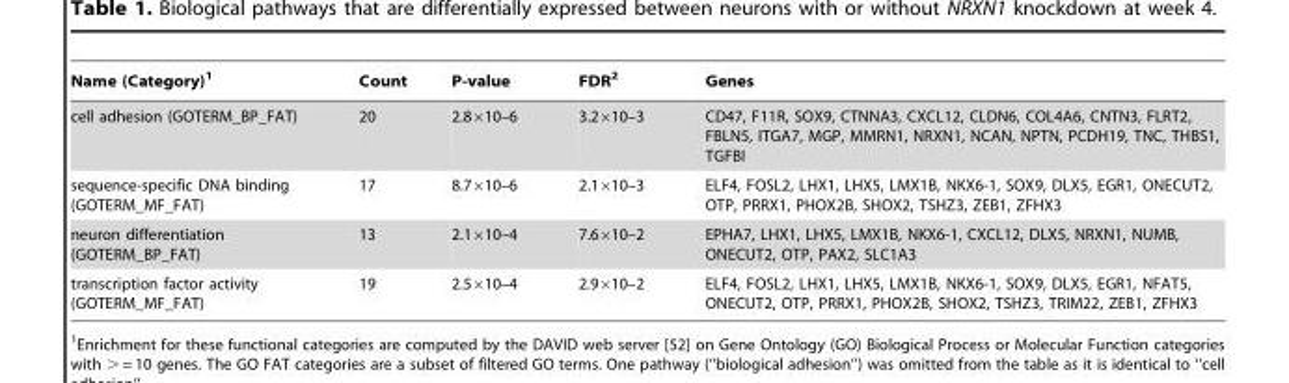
<table><thead><tr><td>Name (Category)<sup>1</sup></td><td>Count</td><td>P-value</td><td>FDR<sup>2</sup></td><td>Genes</td></tr></thead><tbody><tr><td>cell adhesion (GOTERM_BP_FAT)</td><td>20</td><td>2.8×10–6</td><td>3.2×10–3</td><td>CD47, F11R, SOX9, CTNNA3, CXCL12, CLDN6, COL4A6, CNTN3, FLRT2, FBLN5, ITGA7, MGP, MMRN1, NRXN1, NCAN, NPTN, PCDH19, TNC, THBS1, TGFBI</td></tr><tr><td>sequence-specific DNA binding (GOTERM_MF_FAT)</td><td>17</td><td>8.7×10–6</td><td>2.1×10–3</td><td>ELF4, FOSL2, LHX1, LHX5, LMX1B, NKX6-1, SOX9, DLX5, EGR1, ONECUT2, OTP, PRRX1, PHOX2B, SHOX2, TSHZ3, ZEB1, ZFHX3</td></tr><tr><td>neuron differentiation (GOTERM_BP_FAT)</td><td>13</td><td>2.1×10–4</td><td>7.6×10–2</td><td>EPHA7, LHX1, LHX5, LMX1B, NKX6-1, CXCL12, DLX5, NRXN1, NUMB, ONECUT2, OTP, PAX2, SLC1A3</td></tr><tr><td>transcription factor activity (GOTERM_MF_FAT)</td><td>19</td><td>2.5×10–4</td><td>2.9×10–2</td><td>ELF4, FOSL2, LHX1, LHX5, LMX1B, NKX6-1, SOX9, DLX5, EGR1, NFAT5, ONECUT2, OTP, PRRX1, PHOX2B, SHOX2, TSHZ3, TRIM22, ZEB1, ZFHX3</td></tr></tbody></table>